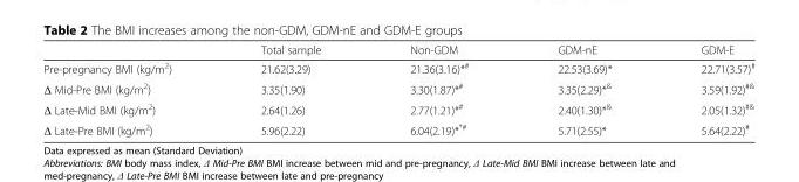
<table><thead><tr><td></td><td>Total sample</td><td>Non-GDM</td><td>GDM-nE</td><td>GDM-E</td></tr></thead><tbody><tr><td>Pre-pregnancy BMI (kg/m<sup>2</sup>)</td><td>21.62(3.29)</td><td>21.36(3.16)*<sup>#</sup></td><td>22.53(3.69)*</td><td>22.71(3.57)<sup>#</sup></td></tr><tr><td>Δ Mid-Pre BMI (kg/m<sup>2</sup>)</td><td>3.35(1.90)</td><td>3.30(1.87)*<sup>#</sup></td><td>3.35(2.29)*<sup>&amp;</sup></td><td>3.59(1.92)<sup>#&amp;</sup></td></tr><tr><td>Δ Late-Mid BMI (kg/m<sup>2</sup>)</td><td>2.64(1.26)</td><td>2.77(1.21)*<sup>#</sup></td><td>2.40(1.30)*<sup>&amp;</sup></td><td>2.05(1.32)<sup>#&amp;</sup></td></tr><tr><td>Δ Late-Pre BMI (kg/m<sup>2</sup>)</td><td>5.96(2.22)</td><td>6.04(2.19)*<sup>*#</sup></td><td>5.71(2.55)*</td><td>5.64(2.22)<sup>#</sup></td></tr></tbody></table>